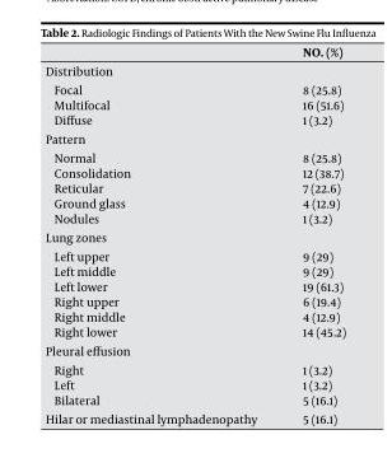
<table><thead><tr><td></td><td>nO. (%)</td></tr></thead><tbody><tr><td colspan="2">Distribution</td></tr><tr><td>Focal</td><td>8 (25.8)</td></tr><tr><td>Multifocal</td><td>16 (51.6)</td></tr><tr><td>Diffuse</td><td>1 (3.2)</td></tr><tr><td colspan="2">Pattern</td></tr><tr><td>Normal</td><td>8 (25.8)</td></tr><tr><td>Consolidation</td><td>12 (38.7)</td></tr><tr><td>Reticular</td><td>7 (22.6)</td></tr><tr><td>Ground glass</td><td>4 (12.9)</td></tr><tr><td>Nodules</td><td>1 (3.2)</td></tr><tr><td colspan="2">Lung zones</td></tr><tr><td>Left upper</td><td>9 (29)</td></tr><tr><td>Left middle</td><td>9 (29)</td></tr><tr><td>Left lower</td><td>19 (61.3)</td></tr><tr><td>Right upper</td><td>6 (19.4)</td></tr><tr><td>Right middle</td><td>4 (12.9)</td></tr><tr><td>Right lower</td><td>14 (45.2)</td></tr><tr><td colspan="2">Pleural effusion</td></tr><tr><td>Right</td><td>1 (3.2)</td></tr><tr><td>Left</td><td>1 (3.2)</td></tr><tr><td>Bilateral</td><td>5 (16.1)</td></tr><tr><td>Hilar or mediastinal lymphadenopathy</td><td>5 (16.1)</td></tr></tbody></table>